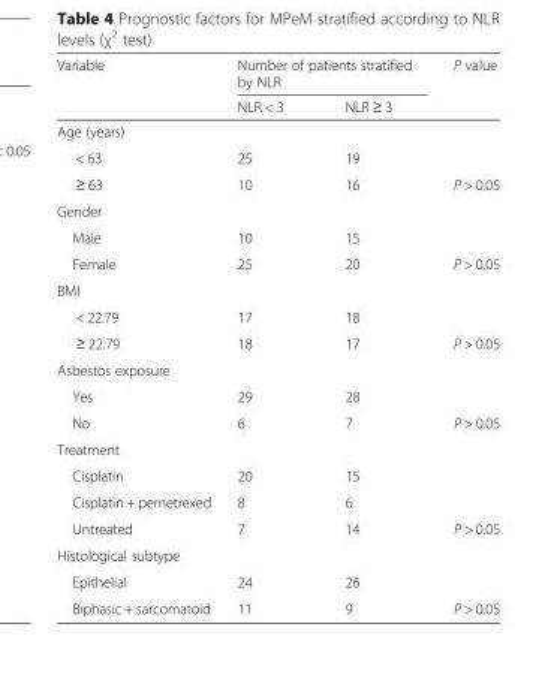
<table><thead><tr><td rowspan="2">Variable</td><td colspan="2">Number of patients stratified by NLR</td><td rowspan="2">P value</td></tr><tr><td>NLR &lt; 3</td><td>NLR ≥ 3</td></tr></thead><tbody><tr><td colspan="4">Age (years)</td></tr><tr><td>&lt; 63</td><td>25</td><td>19</td><td></td></tr><tr><td>≥ 63</td><td>10</td><td>16</td><td>P &gt; 0.05</td></tr><tr><td colspan="4">Gender</td></tr><tr><td>Male</td><td>10</td><td>15</td><td></td></tr><tr><td>Female</td><td>25</td><td>20</td><td>P &gt; 0.05</td></tr><tr><td colspan="4">BMI</td></tr><tr><td>&lt; 22.79</td><td>17</td><td>18</td><td></td></tr><tr><td>≥ 22.79</td><td>18</td><td>17</td><td>P &gt; 0.05</td></tr><tr><td colspan="4">Asbestos exposure</td></tr><tr><td>Yes</td><td>29</td><td>28</td><td></td></tr><tr><td>No</td><td>6</td><td>7</td><td>P &gt; 0.05</td></tr><tr><td colspan="4">Treatment</td></tr><tr><td>Cisplatin</td><td>20</td><td>15</td><td></td></tr><tr><td>Cisplatin + pemetrexed</td><td>8</td><td>6</td><td></td></tr><tr><td>Untreated</td><td>7</td><td>14</td><td>P &gt; 0.05</td></tr><tr><td colspan="4">Histological subtype</td></tr><tr><td>Epithelial</td><td>24</td><td>26</td><td></td></tr><tr><td>Biphasic + sarcomatoid</td><td>11</td><td>9</td><td>P &gt; 0.05</td></tr></tbody></table>